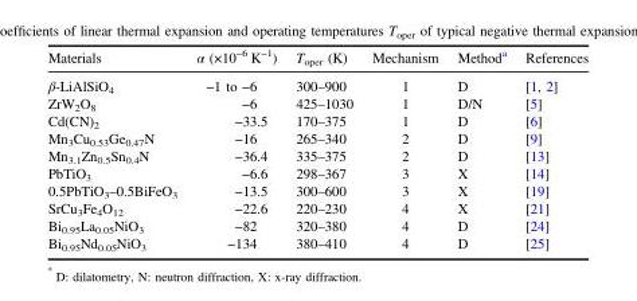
<table><thead><tr><td>Materials</td><td>α (×10<sup>−6</sup> K<sup>−1</sup>)</td><td>T<sub>oper</sub> (K)</td><td>Mechanism</td><td>Method<sup>a</sup></td><td>References</td></tr></thead><tbody><tr><td>β-LiAlSiO<sub>4</sub></td><td>−1 to −6</td><td>300–900</td><td>1</td><td>D</td><td>[1, 2]</td></tr><tr><td>ZrW<sub>2</sub>O<sub>8</sub></td><td>−6</td><td>425–1030</td><td>1</td><td>D/N</td><td>[5]</td></tr><tr><td>Cd(CN)<sub>2</sub></td><td>−33.5</td><td>170–375</td><td>1</td><td>D</td><td>[6]</td></tr><tr><td>Mn<sub>3</sub>Cu<sub>0.53</sub>Ge<sub>0.47</sub>N</td><td>−16</td><td>265–340</td><td>2</td><td>D</td><td>[9]</td></tr><tr><td>Mn<sub>3.1</sub>Zn<sub>0.5</sub>Sn<sub>0.4</sub>N</td><td>−36.4</td><td>335–375</td><td>2</td><td>D</td><td>[13]</td></tr><tr><td>PbTiO<sub>3</sub></td><td>−6.6</td><td>298–367</td><td>3</td><td>X</td><td>[14]</td></tr><tr><td>0.5PbTiO<sub>3</sub>–0.5BiFeO<sub>3</sub></td><td>−13.5</td><td>300–600</td><td>3</td><td>X</td><td>[19]</td></tr><tr><td>SrCu<sub>3</sub>Fe<sub>4</sub>O<sub>12</sub></td><td>−22.6</td><td>220–230</td><td>4</td><td>X</td><td>[21]</td></tr><tr><td>Bi<sub>0.95</sub>La<sub>0.05</sub>NiO<sub>3</sub></td><td>−82</td><td>320–380</td><td>4</td><td>D</td><td>[24]</td></tr><tr><td>Bi<sub>0.95</sub>Nd<sub>0.05</sub>NiO<sub>3</sub></td><td>−134</td><td>380–410</td><td>4</td><td>D</td><td>[25]</td></tr></tbody></table>